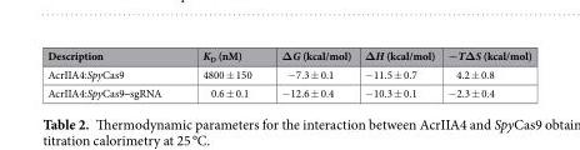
<table><thead><tr><td>Description</td><td>K<sub>D</sub> (nM)</td><td>ΔG (kcal/mol)</td><td>ΔH (kcal/mol)</td><td>−TΔS (kcal/mol)</td></tr></thead><tbody><tr><td>AcrIIA4:SpyCas9</td><td>4800 ± 150</td><td>−7.3 ± 0.1</td><td>−11.5 ± 0.7</td><td>4.2 ± 0.8</td></tr><tr><td>AcrIIA4:SpyCas9‒sgRNA</td><td>0.6 ± 0.1</td><td>−12.6 ± 0.4</td><td>−10.3 ± 0.1</td><td>−2.3 ± 0.4</td></tr></tbody></table>